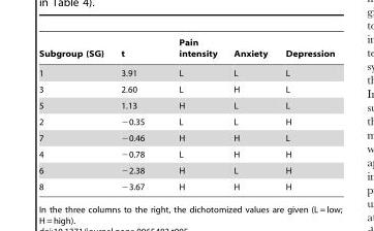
<table><thead><tr><td>Subgroup (SG)</td><td>t</td><td>Pain intensity</td><td>Anxiety</td><td>Depression</td></tr></thead><tbody><tr><td>1</td><td>3.91</td><td>L</td><td>L</td><td>L</td></tr><tr><td>3</td><td>2.60</td><td>L</td><td>H</td><td>L</td></tr><tr><td>5</td><td>1.13</td><td>H</td><td>L</td><td>L</td></tr><tr><td>2</td><td>−0.35</td><td>L</td><td>L</td><td>H</td></tr><tr><td>7</td><td>−0.46</td><td>H</td><td>H</td><td>L</td></tr><tr><td>4</td><td>−0.78</td><td>L</td><td>H</td><td>H</td></tr><tr><td>6</td><td>−2.38</td><td>H</td><td>L</td><td>H</td></tr><tr><td>8</td><td>−3.67</td><td>H</td><td>H</td><td>H</td></tr></tbody></table>